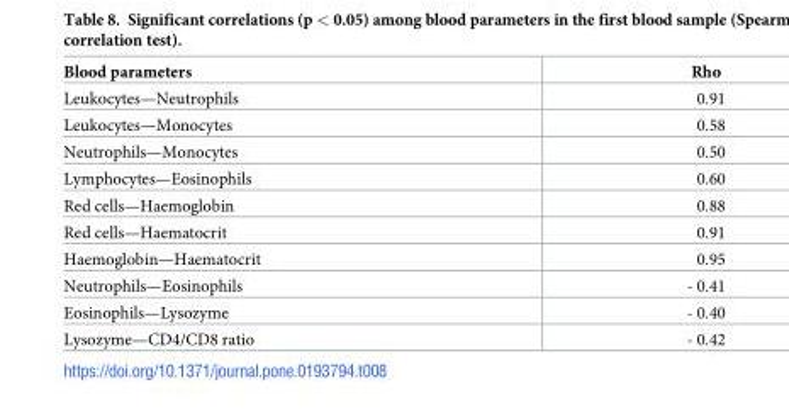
<table><thead><tr><td>Blood parameters</td><td>Rho</td></tr></thead><tbody><tr><td>Leukocytes—Neutrophils</td><td>0.91</td></tr><tr><td>Leukocytes—Monocytes</td><td>0.58</td></tr><tr><td>Neutrophils—Monocytes</td><td>0.50</td></tr><tr><td>Lymphocytes—Eosinophils</td><td>0.60</td></tr><tr><td>Red cells—Haemoglobin</td><td>0.88</td></tr><tr><td>Red cells—Haematocrit</td><td>0.91</td></tr><tr><td>Haemoglobin—Haematocrit</td><td>0.95</td></tr><tr><td>Neutrophils—Eosinophils</td><td>- 0.41</td></tr><tr><td>Eosinophils—Lysozyme</td><td>- 0.40</td></tr><tr><td>Lysozyme—CD4/CD8 ratio</td><td>- 0.42</td></tr></tbody></table>